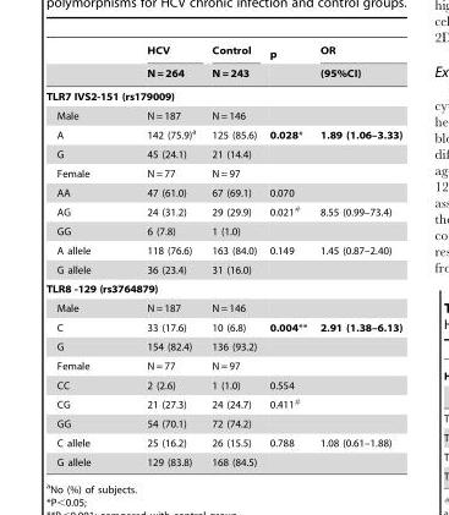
<table><thead><tr><td rowspan="2"></td><td rowspan="2">HCV N = 264</td><td rowspan="2">Control N = 243</td><td rowspan="2">p</td><td rowspan="2">OR (95%CI)</td></tr><tr></tr></thead><tbody><tr><td colspan="5">TLR7 IVS2-151 (rs179009)</td></tr><tr><td>Male</td><td>N = 187</td><td>N = 146</td><td></td><td></td></tr><tr><td>A</td><td>142 (75.9)<sup>a</sup></td><td>125 (85.6)</td><td>0.028*</td><td>1.89 (1.06–3.33)</td></tr><tr><td>G</td><td>45 (24.1)</td><td>21 (14.4)</td><td></td><td></td></tr><tr><td>Female</td><td>N = 77</td><td>N = 97</td><td></td><td></td></tr><tr><td>AA</td><td>47 (61.0)</td><td>67 (69.1)</td><td>0.070</td><td></td></tr><tr><td>AG</td><td>24 (31.2)</td><td>29 (29.9)</td><td>0.021#</td><td>8.55 (0.99–73.4)</td></tr><tr><td>GG</td><td>6 (7.8)</td><td>1 (1.0)</td><td></td><td></td></tr><tr><td>A allele</td><td>118 (76.6)</td><td>163 (84.0)</td><td>0.149</td><td>1.45 (0.87–2.40)</td></tr><tr><td>G allele</td><td>36 (23.4)</td><td>31 (16.0)</td><td></td><td></td></tr><tr><td colspan="5">TLR8 -129 (rs3764879)</td></tr><tr><td>Male</td><td>N = 187</td><td>N = 146</td><td></td><td></td></tr><tr><td>C</td><td>33 (17.6)</td><td>10 (6.8)</td><td>0.004**</td><td>2.91 (1.38–6.13)</td></tr><tr><td>G</td><td>154 (82.4)</td><td>136 (93.2)</td><td></td><td></td></tr><tr><td>Female</td><td>N = 77</td><td>N = 97</td><td></td><td></td></tr><tr><td>CC</td><td>2 (2.6)</td><td>1 (1.0)</td><td>0.554</td><td></td></tr><tr><td>CG</td><td>21 (27.3)</td><td>24 (24.7)</td><td>0.411#</td><td></td></tr><tr><td>GG</td><td>54 (70.1)</td><td>72 (74.2)</td><td></td><td></td></tr><tr><td>C allele</td><td>25 (16.2)</td><td>26 (15.5)</td><td>0.788</td><td>1.08 (0.61–1.88)</td></tr><tr><td>G allele</td><td>129 (83.8)</td><td>168 (84.5)</td><td></td><td></td></tr></tbody></table>